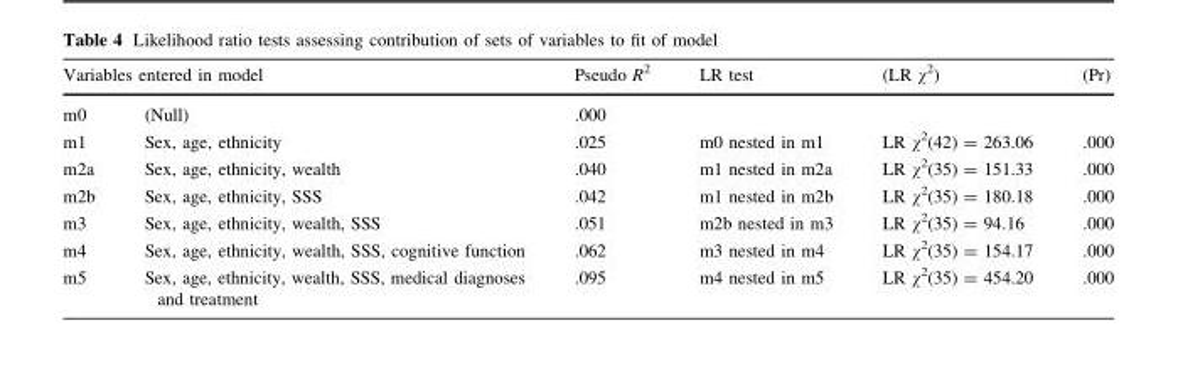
<table><thead><tr><td colspan="2">Variables entered in model</td><td rowspan="2">Pseudo R<sup>2</sup> .000</td><td rowspan="2">LR test</td><td rowspan="2">(LR χ<sup>2</sup>)</td><td rowspan="2">(Pr)</td></tr><tr><td>m0</td><td>(Null)</td></tr></thead><tbody><tr><td>m1</td><td>Sex, age, ethnicity</td><td>.025</td><td>m0 nested in m1</td><td>LR χ<sup>2</sup>(42) = 263.06</td><td>.000</td></tr><tr><td>m2a</td><td>Sex, age, ethnicity, wealth</td><td>.040</td><td>m1 nested in m2a</td><td>LR χ<sup>2</sup>(35) = 151.33</td><td>.000</td></tr><tr><td>m2b</td><td>Sex, age, ethnicity, SSS</td><td>.042</td><td>m1 nested in m2b</td><td>LR χ<sup>2</sup>(35) = 180.18</td><td>.000</td></tr><tr><td>m3</td><td>Sex, age, ethnicity, wealth, SSS</td><td>.051</td><td>m2b nested in m3</td><td>LR χ<sup>2</sup>(35) = 94.16</td><td>.000</td></tr><tr><td>m4</td><td>Sex, age, ethnicity, wealth, SSS, cognitive function</td><td>.062</td><td>m3 nested in m4</td><td>LR χ<sup>2</sup>(35) = 154.17</td><td>.000</td></tr><tr><td>m5</td><td>Sex, age, ethnicity, wealth, SSS, medical diagnoses and treatment</td><td>.095</td><td>m4 nested in m5</td><td>LR χ<sup>2</sup>(35) = 454.20</td><td>.000</td></tr></tbody></table>